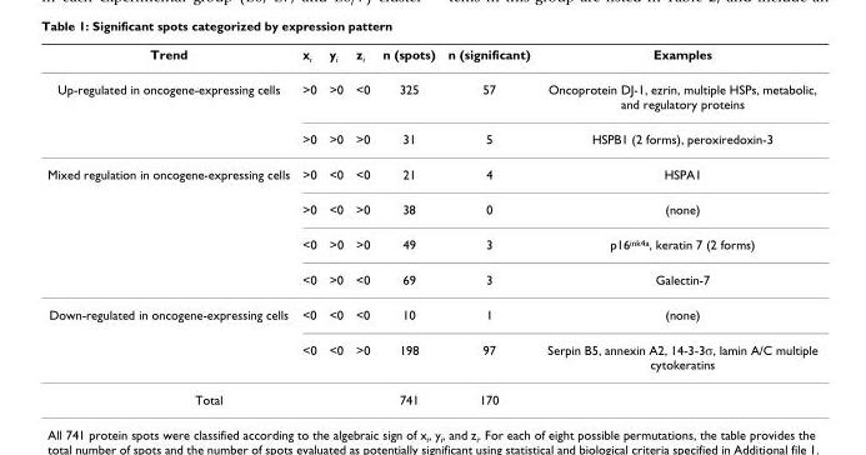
<table><thead><tr><td>Trend</td><td>x<sub>i</sub></td><td>y<sub>i</sub></td><td>z<sub>i</sub></td><td>n (spots)</td><td>n (significant)</td><td>Examples</td></tr></thead><tbody><tr><td rowspan="2">Up-regulated in oncogene-expressing cells</td><td>&gt;0</td><td>&gt;0</td><td>&lt;0</td><td>325</td><td>57</td><td>Oncoprotein DJ-1, ezrin, multiple HSPs, metabolic, and regulatory proteins</td></tr><tr><td>&gt;0</td><td>&gt;0</td><td>&gt;0</td><td>31</td><td>5</td><td>HSPB1 (2 forms), peroxiredoxin-3</td></tr><tr><td rowspan="4">Mixed regulation in oncogene-expressing cells</td><td>&gt;0</td><td>&lt;0</td><td>&lt;0</td><td>21</td><td>4</td><td>HSPA1</td></tr><tr><td>&gt;0</td><td>&lt;0</td><td>&gt;0</td><td>38</td><td>0</td><td>(none)</td></tr><tr><td>&lt;0</td><td>&gt;0</td><td>&gt;0</td><td>49</td><td>3</td><td>p16<sup>ink4a</sup>, keratin 7 (2 forms)</td></tr><tr><td>&lt;0</td><td>&gt;0</td><td>&lt;0</td><td>69</td><td>3</td><td>Galectin-7</td></tr><tr><td rowspan="2">Down-regulated in oncogene-expressing cells</td><td>&lt;0</td><td>&lt;0</td><td>&lt;0</td><td>10</td><td>1</td><td>(none)</td></tr><tr><td>&lt;0</td><td>&lt;0</td><td>&gt;0</td><td>198</td><td>97</td><td>Serpin B5, annexin A2, 14-3-3σ, lamin A/C multiple cytokeratins</td></tr><tr><td colspan="4">Total</td><td>741</td><td>170</td><td></td></tr></tbody></table>